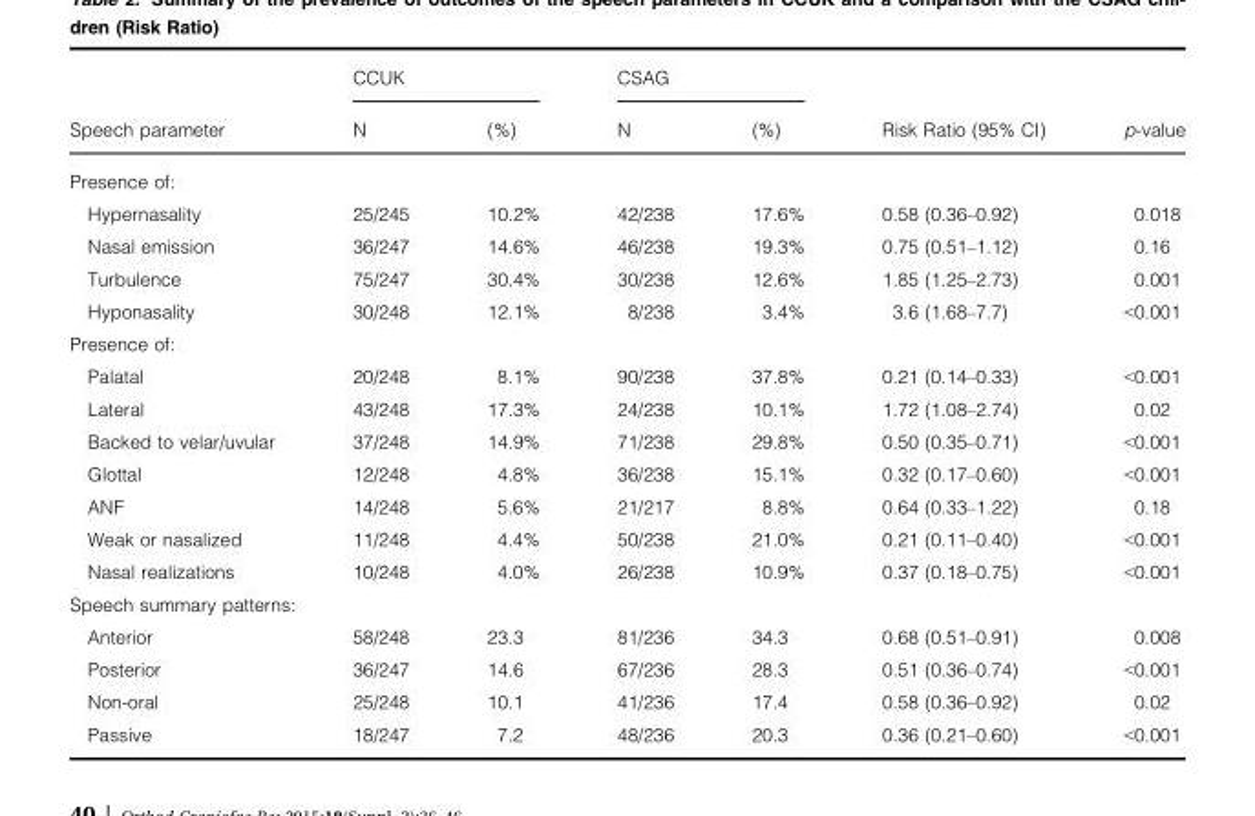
<table><thead><tr><td rowspan="2">Speech parameter</td><td colspan="2">CCUK</td><td colspan="2">CSAG</td><td rowspan="2">Risk Ratio (95% CI)</td><td rowspan="2">p-value</td></tr><tr><td>N</td><td>(%)</td><td>N</td><td>(%)</td></tr></thead><tbody><tr><td colspan="7">Presence of:</td></tr><tr><td>Hypernasality</td><td>25/245</td><td>10.2%</td><td>42/238</td><td>17.6%</td><td>0.58 (0.36–0.92)</td><td>0.018</td></tr><tr><td>Nasal emission</td><td>36/247</td><td>14.6%</td><td>46/238</td><td>19.3%</td><td>0.75 (0.51–1.12)</td><td>0.16</td></tr><tr><td>Turbulence</td><td>75/247</td><td>30.4%</td><td>30/238</td><td>12.6%</td><td>1.85 (1.25–2.73)</td><td>0.001</td></tr><tr><td>Hyponasality</td><td>30/248</td><td>12.1%</td><td>8/238</td><td>3.4%</td><td>3.6 (1.68–7.7)</td><td>&lt;0.001</td></tr><tr><td colspan="7">Presence of:</td></tr><tr><td>Palatal</td><td>20/248</td><td>8.1%</td><td>90/238</td><td>37.8%</td><td>0.21 (0.14–0.33)</td><td>&lt;0.001</td></tr><tr><td>Lateral</td><td>43/248</td><td>17.3%</td><td>24/238</td><td>10.1%</td><td>1.72 (1.08–2.74)</td><td>0.02</td></tr><tr><td>Backed to velar/uvular</td><td>37/248</td><td>14.9%</td><td>71/238</td><td>29.8%</td><td>0.50 (0.35–0.71)</td><td>&lt;0.001</td></tr><tr><td>Glottal</td><td>12/248</td><td>4.8%</td><td>36/238</td><td>15.1%</td><td>0.32 (0.17–0.60)</td><td>&lt;0.001</td></tr><tr><td>ANF</td><td>14/248</td><td>5.6%</td><td>21/217</td><td>8.8%</td><td>0.64 (0.33–1.22)</td><td>0.18</td></tr><tr><td>Weak or nasalized</td><td>11/248</td><td>4.4%</td><td>50/238</td><td>21.0%</td><td>0.21 (0.11–0.40)</td><td>&lt;0.001</td></tr><tr><td>Nasal realizations</td><td>10/248</td><td>4.0%</td><td>26/238</td><td>10.9%</td><td>0.37 (0.18–0.75)</td><td>&lt;0.001</td></tr><tr><td colspan="7">Speech summary patterns:</td></tr><tr><td>Anterior</td><td>58/248</td><td>23.3</td><td>81/236</td><td>34.3</td><td>0.68 (0.51–0.91)</td><td>0.008</td></tr><tr><td>Posterior</td><td>36/247</td><td>14.6</td><td>67/236</td><td>28.3</td><td>0.51 (0.36–0.74)</td><td>&lt;0.001</td></tr><tr><td>Non-oral</td><td>25/248</td><td>10.1</td><td>41/236</td><td>17.4</td><td>0.58 (0.36–0.92)</td><td>0.02</td></tr><tr><td>Passive</td><td>18/247</td><td>7.2</td><td>48/236</td><td>20.3</td><td>0.36 (0.21–0.60)</td><td>&lt;0.001</td></tr></tbody></table>